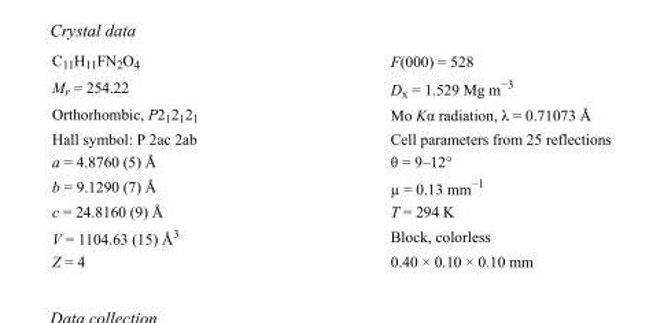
<table><tbody><tr><td>C<sub>11</sub>H<sub>11</sub>FN<sub>2</sub>O<sub>4</sub></td><td>F(000) = 528</td></tr><tr><td>M<sub>r</sub> = 254.22</td><td>D<sub>x</sub> = 1.529 Mg m<sup>−3</sup></td></tr><tr><td>Orthorhombic, P2<sub>1</sub>2<sub>1</sub>2<sub>1</sub></td><td>Mo Kα radiation, λ = 0.71073 Å</td></tr><tr><td>Hall symbol: P 2ac 2ab</td><td>Cell parameters from 25 reflections</td></tr><tr><td>a = 4.8760 (5) Å</td><td>θ = 9–12°</td></tr><tr><td>b = 9.1290 (7) Å</td><td>µ = 0.13 mm<sup>−1</sup></td></tr><tr><td>c = 24.8160 (9) Å</td><td>T = 294 K</td></tr><tr><td>V = 1104.63 (15) Å<sup>3</sup></td><td>Block, colorless</td></tr><tr><td>Z = 4</td><td>0.40 × 0.10 × 0.10 mm</td></tr></tbody></table>